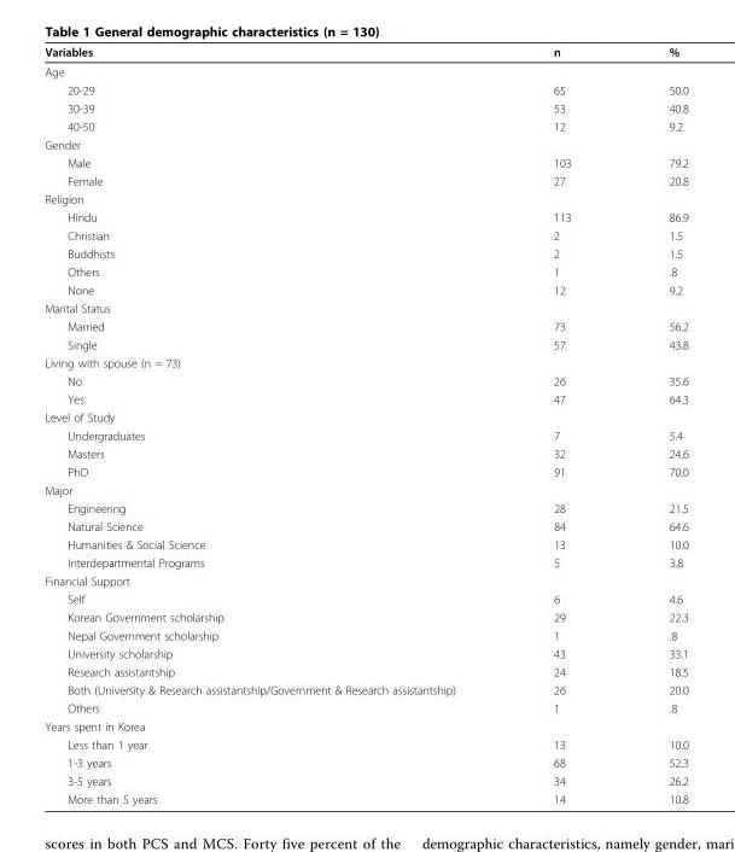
<table><thead><tr><td>Variables</td><td>n</td><td>%</td></tr></thead><tbody><tr><td colspan="3">Age</td></tr><tr><td>20-29</td><td>65</td><td>50.0</td></tr><tr><td>30-39</td><td>53</td><td>40.8</td></tr><tr><td>40-50</td><td>12</td><td>9.2</td></tr><tr><td colspan="3">Gender</td></tr><tr><td>Male</td><td>103</td><td>79.2</td></tr><tr><td>Female</td><td>27</td><td>20.8</td></tr><tr><td colspan="3">Religion</td></tr><tr><td>Hindu</td><td>113</td><td>86.9</td></tr><tr><td>Christian</td><td>2</td><td>1.5</td></tr><tr><td>Buddhists</td><td>2</td><td>1.5</td></tr><tr><td>Others</td><td>1</td><td>.8</td></tr><tr><td>None</td><td>12</td><td>9.2</td></tr><tr><td colspan="3">Marital Status</td></tr><tr><td>Married</td><td>73</td><td>56.2</td></tr><tr><td>Single</td><td>57</td><td>43.8</td></tr><tr><td colspan="3">Living with spouse (n = 73)</td></tr><tr><td>No</td><td>26</td><td>35.6</td></tr><tr><td>Yes</td><td>47</td><td>64.3</td></tr><tr><td colspan="3">Level of Study</td></tr><tr><td>Undergraduates</td><td>7</td><td>5.4</td></tr><tr><td>Masters</td><td>32</td><td>24.6</td></tr><tr><td>PhD</td><td>91</td><td>70.0</td></tr><tr><td colspan="3">Major</td></tr><tr><td>Engineering</td><td>28</td><td>21.5</td></tr><tr><td>Natural Science</td><td>84</td><td>64.6</td></tr><tr><td>Humanities &amp; Social Science</td><td>13</td><td>10.0</td></tr><tr><td>Interdepartmental Programs</td><td>5</td><td>3.8</td></tr><tr><td colspan="3">Financial Support</td></tr><tr><td>Self</td><td>6</td><td>4.6</td></tr><tr><td>Korean Government scholarship</td><td>29</td><td>22.3</td></tr><tr><td>Nepal Government scholarship</td><td>1</td><td>.8</td></tr><tr><td>University scholarship</td><td>43</td><td>33.1</td></tr><tr><td>Research assistantship</td><td>24</td><td>18.5</td></tr><tr><td>Both (University &amp; Research assistantship/Government &amp; Research assistantship)</td><td>26</td><td>20.0</td></tr><tr><td>Others</td><td>1</td><td>.8</td></tr><tr><td colspan="3">Years spent in Korea</td></tr><tr><td>Less than 1 year</td><td>13</td><td>10.0</td></tr><tr><td>1-3 years</td><td>68</td><td>52.3</td></tr><tr><td>3-5 years</td><td>34</td><td>26.2</td></tr><tr><td>More than 5 years</td><td>14</td><td>10.8</td></tr></tbody></table>